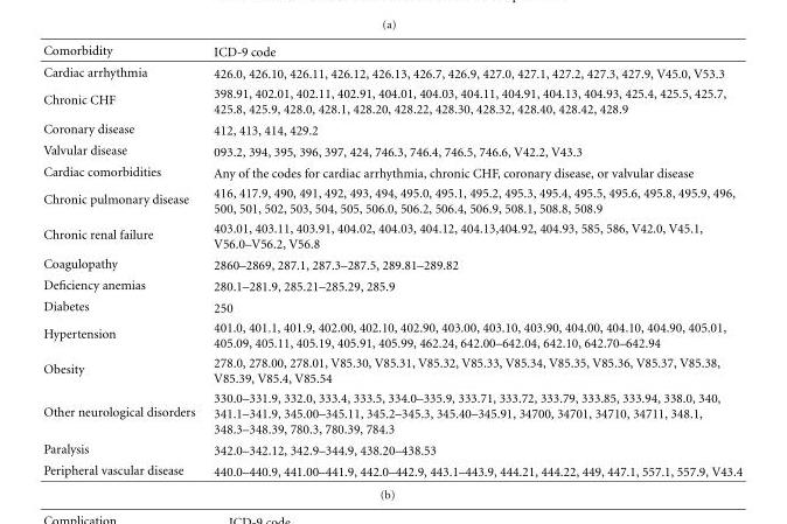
<table><thead><tr><td>Comorbidity</td><td>ICD-9 code</td></tr></thead><tbody><tr><td>Cardiac arrhythmia</td><td>426.0, 426.10, 426.11, 426.12, 426.13, 426.7, 426.9, 427.0, 427.1, 427.2, 427.3, 427.9, V45.0, V53.3</td></tr><tr><td>Chronic CHF</td><td>398.91, 402.01, 402.11, 402.91, 404.01, 404.03, 404.11, 404.91, 404.13, 404.93, 425.4, 425.5, 425.7, 425.8, 425.9, 428.0, 428.1, 428.20, 428.22, 428.30, 428.32, 428.40, 428.42, 428.9</td></tr><tr><td>Coronary disease</td><td>412, 413, 414, 429.2</td></tr><tr><td>Valvular disease</td><td>093.2, 394, 395, 396, 397, 424, 746.3, 746.4, 746.5, 746.6, V42.2, V43.3</td></tr><tr><td>Cardiac comorbidities</td><td>Any of the codes for cardiac arrhythmia, chronic CHF, coronary disease, or valvular disease</td></tr><tr><td>Chronic pulmonary disease</td><td>416, 417.9, 490, 491, 492, 493, 494, 495.0, 495.1, 495.2, 495.3, 495.4, 495.5, 495.6, 495.8, 495.9, 496, 500, 501, 502, 503, 504, 505, 506.0, 506.2, 506.4, 506.9, 508.1, 508.8, 508.9</td></tr><tr><td>Chronic renal failure</td><td>403.01, 403.11, 403.91, 404.02, 404.03, 404.12, 404.13,404.92, 404.93, 585, 586, V42.0, V45.1, V56.0–V56.2, V56.8</td></tr><tr><td>Coagulopathy</td><td>2860–2869, 287.1, 287.3–287.5, 289.81–289.82</td></tr><tr><td>Deficiency anemias</td><td>280.1–281.9, 285.21–285.29, 285.9</td></tr><tr><td>Diabetes</td><td>250</td></tr><tr><td>Hypertension</td><td>401.0, 401.1, 401.9, 402.00, 402.10, 402.90, 403.00, 403.10, 403.90, 404.00, 404.10, 404.90, 405.01, 405.09, 405.11, 405.19, 405.91, 405.99, 462.24, 642.00–642.04, 642.10, 642.70–642.94</td></tr><tr><td>Obesity</td><td>278.0, 278.00, 278.01, V85.30, V85.31, V85.32, V85.33, V85.34, V85.35, V85.36, V85.37, V85.38, V85.39, V85.4, V85.54</td></tr><tr><td>Other neurological disorders</td><td>330.0–331.9, 332.0, 333.4, 333.5, 334.0–335.9, 333.71, 333.72, 333.79, 333.85, 333.94, 338.0, 340, 341.1–341.9, 345.00–345.11, 345.2–345.3, 345.40–345.91, 34700, 34701, 34710, 34711, 348.1, 348.3–348.39, 780.3, 780.39, 784.3</td></tr><tr><td>Paralysis</td><td>342.0–342.12, 342.9–344.9, 438.20–438.53</td></tr><tr><td>Peripheral vascular disease</td><td>440.0–440.9, 441.00–441.9, 442.0–442.9, 443.1–443.9, 444.21, 444.22, 449, 447.1, 557.1, 557.9, V43.4</td></tr></tbody></table>